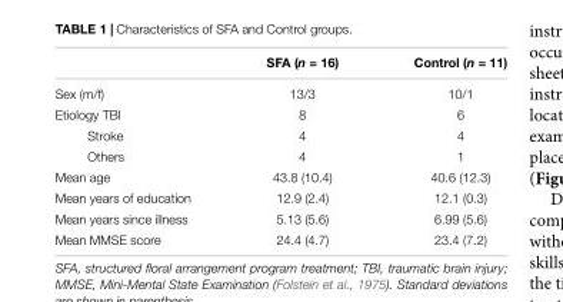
<table><thead><tr><td></td><td>SFA (n = 16)</td><td>Control (n = 11)</td></tr></thead><tbody><tr><td>Sex (m/f)</td><td>13/3</td><td>10/1</td></tr><tr><td>Etiology TBI</td><td>8</td><td>6</td></tr><tr><td>Stroke</td><td>4</td><td>4</td></tr><tr><td>Others</td><td>4</td><td>1</td></tr><tr><td>Mean age</td><td>43.8 (10.4)</td><td>40.6 (12.3)</td></tr><tr><td>Mean years of education</td><td>12.9 (2.4)</td><td>12.1 (0.3)</td></tr><tr><td>Mean years since illness</td><td>5.13 (5.6)</td><td>6.99 (5.6)</td></tr><tr><td>Mean MMSE score</td><td>24.4 (4.7)</td><td>23.4 (7.2)</td></tr></tbody></table>